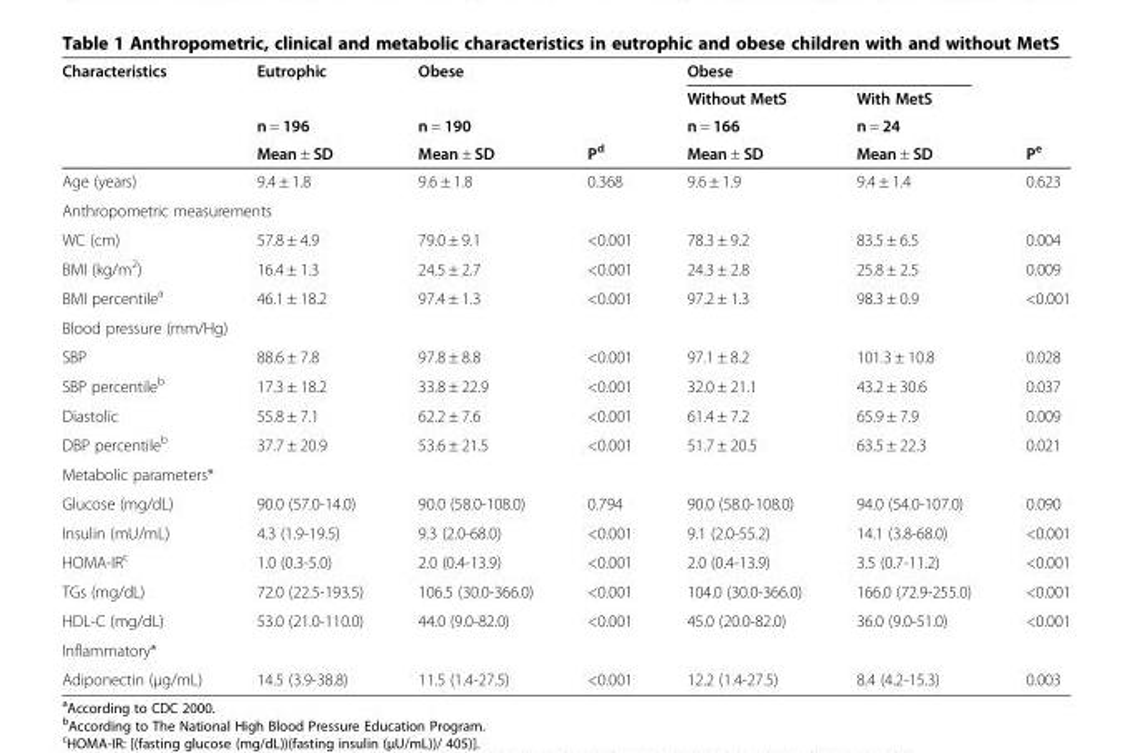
<table><thead><tr><td rowspan="4">Characteristics</td><td rowspan="4">Eutrophic n = 196 Mean ± SD</td><td rowspan="4">Obese n = 190 Mean ± SD</td><td rowspan="4">P<sup>d</sup></td><td colspan="2">Obese</td><td rowspan="4">P<sup>e</sup></td></tr><tr><td rowspan="3">Without MetS n = 166 Mean ± SD</td><td rowspan="3">With MetS n = 24 Mean ± SD</td></tr><tr></tr><tr></tr></thead><tbody><tr><td>Age (years)</td><td>9.4 ± 1.8</td><td>9.6 ± 1.8</td><td>0.368</td><td>9.6 ± 1.9</td><td>9.4 ± 1.4</td><td>0.623</td></tr><tr><td colspan="7">Anthropometric measurements</td></tr><tr><td>WC (cm)</td><td>57.8 ± 4.9</td><td>79.0 ± 9.1</td><td>&lt;0.001</td><td>78.3 ± 9.2</td><td>83.5 ± 6.5</td><td>0.004</td></tr><tr><td>BMI (kg/m<sup>2</sup>)</td><td>16.4 ± 1.3</td><td>24.5 ± 2.7</td><td>&lt;0.001</td><td>24.3 ± 2.8</td><td>25.8 ± 2.5</td><td>0.009</td></tr><tr><td>BMI percentile<sup>a</sup></td><td>46.1 ± 18.2</td><td>97.4 ± 1.3</td><td>&lt;0.001</td><td>97.2 ± 1.3</td><td>98.3 ± 0.9</td><td>&lt;0.001</td></tr><tr><td colspan="7">Blood pressure (mm/Hg)</td></tr><tr><td>SBP</td><td>88.6 ± 7.8</td><td>97.8 ± 8.8</td><td>&lt;0.001</td><td>97.1 ± 8.2</td><td>101.3 ± 10.8</td><td>0.028</td></tr><tr><td>SBP percentile<sup>b</sup></td><td>17.3 ± 18.2</td><td>33.8 ± 22.9</td><td>&lt;0.001</td><td>32.0 ± 21.1</td><td>43.2 ± 30.6</td><td>0.037</td></tr><tr><td>Diastolic</td><td>55.8 ± 7.1</td><td>62.2 ± 7.6</td><td>&lt;0.001</td><td>61.4 ± 7.2</td><td>65.9 ± 7.9</td><td>0.009</td></tr><tr><td>DBP percentile<sup>b</sup></td><td>37.7 ± 20.9</td><td>53.6 ± 21.5</td><td>&lt;0.001</td><td>51.7 ± 20.5</td><td>63.5 ± 22.3</td><td>0.021</td></tr><tr><td colspan="7">Metabolic parameters*</td></tr><tr><td>Glucose (mg/dL)</td><td>90.0 (57.0-14.0)</td><td>90.0 (58.0-108.0)</td><td>0.794</td><td>90.0 (58.0-108.0)</td><td>94.0 (54.0-107.0)</td><td>0.090</td></tr><tr><td>Insulin (mU/mL)</td><td>4.3 (1.9-19.5)</td><td>9.3 (2.0-68.0)</td><td>&lt;0.001</td><td>9.1 (2.0-55.2)</td><td>14.1 (3.8-68.0)</td><td>&lt;0.001</td></tr><tr><td>HOMA-IR<sup>c</sup></td><td>1.0 (0.3-5.0)</td><td>2.0 (0.4-13.9)</td><td>&lt;0.001</td><td>2.0 (0.4-13.9)</td><td>3.5 (0.7-11.2)</td><td>&lt;0.001</td></tr><tr><td>TGs (mg/dL)</td><td>72.0 (22.5-193.5)</td><td>106.5 (30.0-366.0)</td><td>&lt;0.001</td><td>104.0 (30.0-366.0)</td><td>166.0 (72.9-255.0)</td><td>&lt;0.001</td></tr><tr><td>HDL-C (mg/dL)</td><td>53.0 (21.0-110.0)</td><td>44.0 (9.0-82.0)</td><td>&lt;0.001</td><td>45.0 (20.0-82.0)</td><td>36.0 (9.0-51.0)</td><td>&lt;0.001</td></tr><tr><td colspan="7">Inflammatory*</td></tr><tr><td>Adiponectin (μg/mL)</td><td>14.5 (3.9-38.8)</td><td>11.5 (1.4-27.5)</td><td>&lt;0.001</td><td>12.2 (1.4-27.5)</td><td>8.4 (4.2-15.3)</td><td>0.003</td></tr></tbody></table>